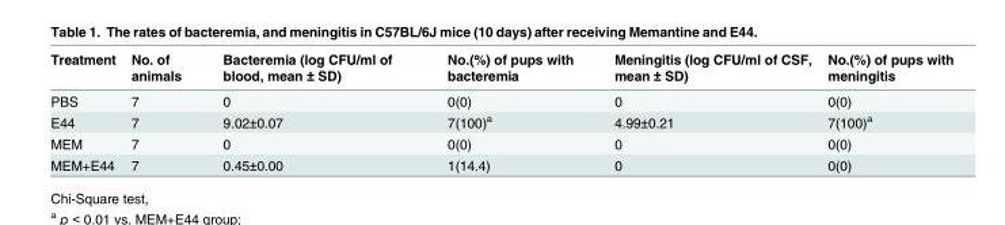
<table><thead><tr><td>Treatment</td><td>No. of animals</td><td>Bacteremia (log CFU/ml of blood, mean ± SD)</td><td>No.(%) of pups with bacteremia</td><td>Meningitis (log CFU/ml of CSF, mean ± SD)</td><td>No.(%) of pups with meningitis</td></tr></thead><tbody><tr><td>PBS</td><td>7</td><td>0</td><td>0(0)</td><td>0</td><td>0(0)</td></tr><tr><td>E44</td><td>7</td><td>9.02±0.07</td><td>7(100)<sup>a</sup></td><td>4.99±0.21</td><td>7(100)<sup>a</sup></td></tr><tr><td>MEM</td><td>7</td><td>0</td><td>0(0)</td><td>0</td><td>0(0)</td></tr><tr><td>MEM+E44</td><td>7</td><td>0.45±0.00</td><td>1(14.4)</td><td>0</td><td>0(0)</td></tr></tbody></table>